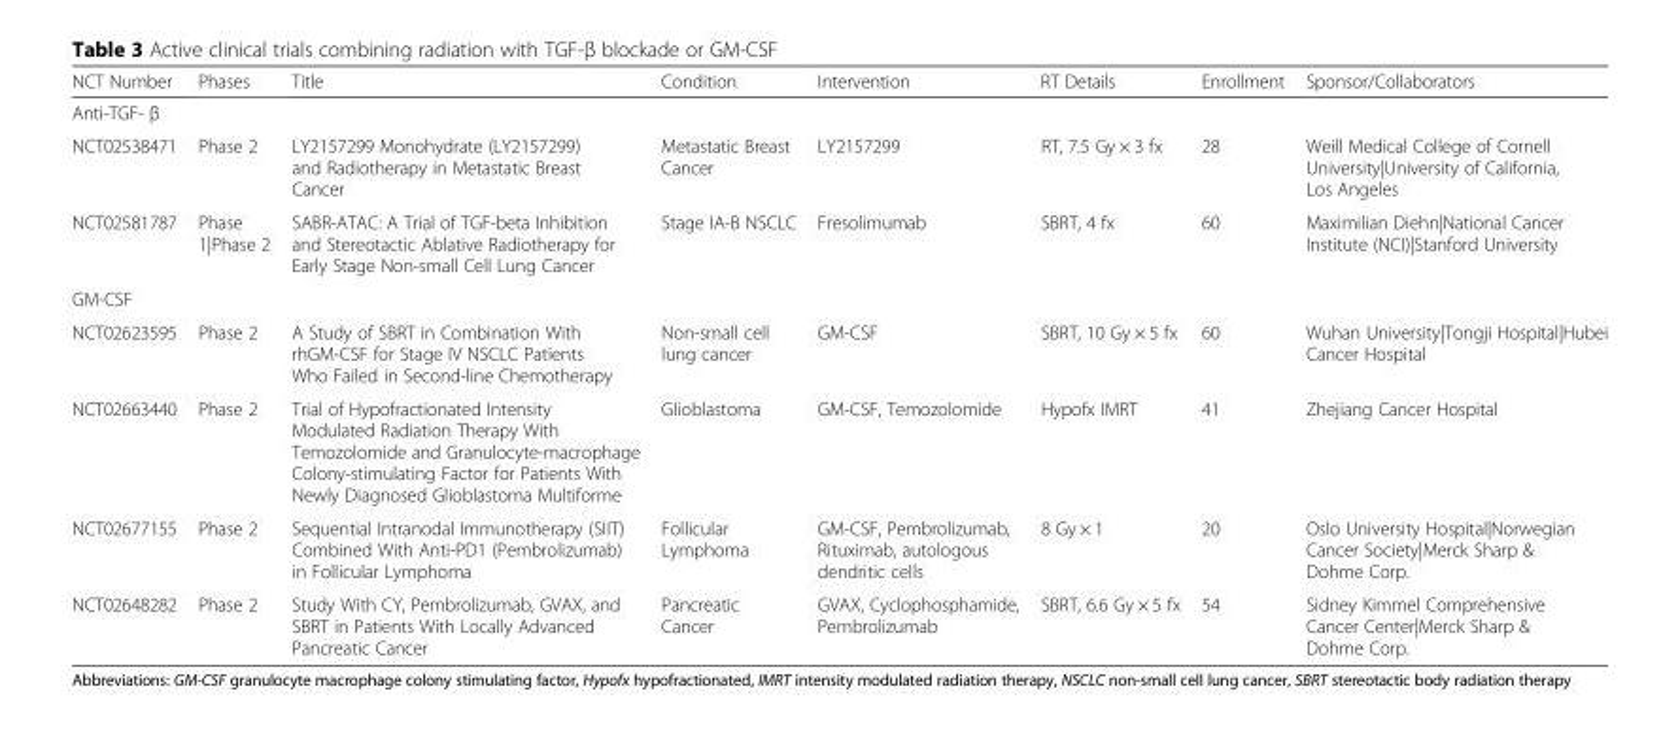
<table><thead><tr><td>NCT Number</td><td>Phases</td><td>Title</td><td>Condition</td><td>Intervention</td><td>RT Details</td><td>Enrollment</td><td>Sponsor/Collaborators</td></tr></thead><tbody><tr><td colspan="8">Anti-TGF- β</td></tr><tr><td>NCT02538471</td><td>Phase 2</td><td>LY2157299 Monohydrate (LY2157299) and Radiotherapy in Metastatic Breast Cancer</td><td>Metastatic Breast Cancer</td><td>LY2157299</td><td>RT, 7.5 Gy × 3 fx</td><td>28</td><td>Weill Medical College of Cornell University|University of California, Los Angeles</td></tr><tr><td>NCT02581787</td><td>Phase 1|Phase 2</td><td>SABR-ATAC: A Trial of TGF-beta Inhibition and Stereotactic Ablative Radiotherapy for Early Stage Non-small Cell Lung Cancer</td><td>Stage IA-B NSCLC</td><td>Fresolimumab</td><td>SBRT, 4 fx</td><td>60</td><td>Maximilian Diehn|National Cancer Institute (NCI)|Stanford University</td></tr><tr><td colspan="8">GM-CSF</td></tr><tr><td>NCT02623595</td><td>Phase 2</td><td>A Study of SBRT in Combination With rhGM-CSF for Stage IV NSCLC Patients Who Failed in Second-line Chemotherapy</td><td>Non-small cell lung cancer</td><td>GM-CSF</td><td>SBRT, 10 Gy × 5 fx</td><td>60</td><td>Wuhan University|Tongji Hospital|Hubei Cancer Hospital</td></tr><tr><td>NCT02663440</td><td>Phase 2</td><td>Trial of Hypofractionated Intensity Modulated Radiation Therapy With Temozolomide and Granulocyte-macrophage Colony-stimulating Factor for Patients With Newly Diagnosed Glioblastoma Multiforme</td><td>Glioblastoma</td><td>GM-CSF, Temozolomide</td><td>Hypofx IMRT</td><td>41</td><td>Zhejiang Cancer Hospital</td></tr><tr><td>NCT02677155</td><td>Phase 2</td><td>Sequential Intranodal Immunotherapy (SIIT) Combined With Anti-PD1 (Pembrolizumab) in Follicular Lymphoma</td><td>Follicular Lymphoma</td><td>GM-CSF, Pembrolizumab, Rituximab, autologous dendritic cells</td><td>8 Gy × 1</td><td>20</td><td>Oslo University Hospital|Norwegian Cancer Society|Merck Sharp &amp; Dohme Corp.</td></tr><tr><td>NCT02648282</td><td>Phase 2</td><td>Study With CY, Pembrolizumab, GVAX, and SBRT in Patients With Locally Advanced Pancreatic Cancer</td><td>Pancreatic Cancer</td><td>GVAX, Cyclophosphamide, Pembrolizumab</td><td>SBRT, 6.6 Gy × 5 fx</td><td>54</td><td>Sidney Kimmel Comprehensive Cancer Center|Merck Sharp &amp; Dohme Corp.</td></tr></tbody></table>